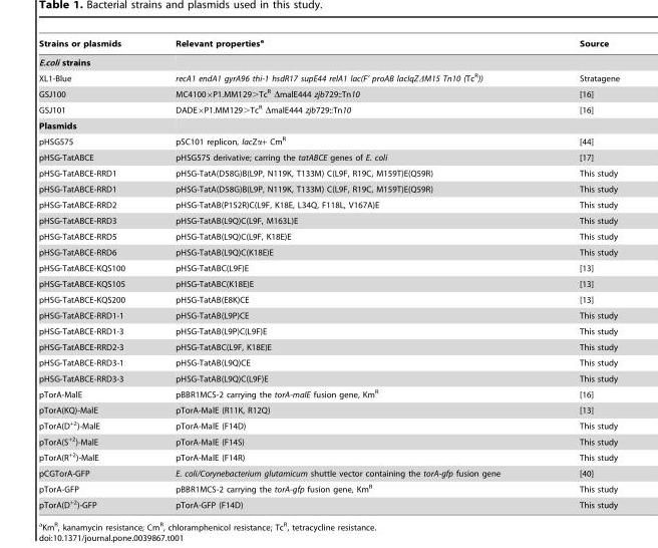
<table><thead><tr><td>Strains or plasmids</td><td>Relevant properties<sup>a</sup></td><td>Source</td></tr></thead><tbody><tr><td colspan="3">E.coli strains</td></tr><tr><td>XL1-Blue</td><td>recA1 endA1 gyrA96 thi-1 hsdR17 supE44 relA1 lac(F’ proAB lacIqZΔM15 Tn10 (Tc<sup>R</sup>))</td><td>Stratagene</td></tr><tr><td>GSJ100</td><td>MC4100×P1.MM129&gt;Tc<sup>R</sup> ΔmalE444 zjb729::Tn10</td><td>[16]</td></tr><tr><td>GSJ101</td><td>DADE×P1.MM129&gt;Tc<sup>R</sup> ΔmalE444 zjb729::Tn10</td><td>[16]</td></tr><tr><td colspan="3">Plasmids</td></tr><tr><td>pHSG575</td><td>pSC101 replicon, lacZα+ Cm<sup>R</sup></td><td>[44]</td></tr><tr><td>pHSG-TatABCE</td><td>pHSG575 derivative; carring the tatABCE genes of E. coli</td><td>[17]</td></tr><tr><td>pHSG-TatABCE-RRD1</td><td>pHSG-TatA(D58G)B(L9P, N119K, T133M) C(L9F, R19C, M159T)E(Q59R)</td><td>This study</td></tr><tr><td>pHSG-TatABCE-RRD1</td><td>pHSG-TatA(D58G)B(L9P, N119K, T133M) C(L9F, R19C, M159T)E(Q59R)</td><td>This study</td></tr><tr><td>pHSG-TatABCE-RRD2</td><td>pHSG-TatAB(P152R)C(L9F, K18E, L34Q, F118L, V167A)E</td><td>This study</td></tr><tr><td>pHSG-TatABCE-RRD3</td><td>pHSG-TatAB(L9Q)C(L9F, M163L)E</td><td>This study</td></tr><tr><td>pHSG-TatABCE-RRD5</td><td>pHSG-TatAB(L9Q)C(L9F, K18E)E</td><td>This study</td></tr><tr><td>pHSG-TatABCE-RRD6</td><td>pHSG-TatAB(L9Q)C(K18E)E</td><td>This study</td></tr><tr><td>pHSG-TatABCE-KQS100</td><td>pHSG-TatABC(L9F)E</td><td>[13]</td></tr><tr><td>pHSG-TatABCE-KQS105</td><td>pHSG-TatABC(K18E)E</td><td>[13]</td></tr><tr><td>pHSG-TatABCE-KQS200</td><td>pHSG-TatAB(E8K)CE</td><td>[13]</td></tr><tr><td>pHSG-TatABCE-RRD1-1</td><td>pHSG-TatAB(L9P)CE</td><td>This study</td></tr><tr><td>pHSG-TatABCE-RRD1-3</td><td>pHSG-TatAB(L9P)C(L9F)E</td><td>This study</td></tr><tr><td>pHSG-TatABCE-RRD2-3</td><td>pHSG-TatABC(L9F, K18E)E</td><td>This study</td></tr><tr><td>pHSG-TatABCE-RRD3-1</td><td>pHSG-TatAB(L9Q)CE</td><td>This study</td></tr><tr><td>pHSG-TatABCE-RRD3-3</td><td>pHSG-TatAB(L9Q)C(L9F)E</td><td>This study</td></tr><tr><td>pTorA-MalE</td><td>pBBR1MCS-2 carrying the torA-malE fusion gene, Km<sup>R</sup></td><td>[16]</td></tr><tr><td>pTorA(KQ)-MalE</td><td>pTorA-MalE (R11K, R12Q)</td><td>[13]</td></tr><tr><td>pTorA(D<sup>+2</sup>)-MalE</td><td>pTorA-MalE (F14D)</td><td>This study</td></tr><tr><td>pTorA(S<sup>+2</sup>)-MalE</td><td>pTorA-MalE (F14S)</td><td>This study</td></tr><tr><td>pTorA(R<sup>+2</sup>)-MalE</td><td>pTorA-MalE (F14R)</td><td>This study</td></tr><tr><td>pCGTorA-GFP</td><td>E. coli/Corynebacterium glutamicum shuttle vector containing the torA-gfp fusion gene</td><td>[40]</td></tr><tr><td>pTorA-GFP</td><td>pBBR1MCS-2 carrying the torA-gfp fusion gene, Km<sup>R</sup></td><td>This study</td></tr><tr><td>pTorA(D<sup>+2</sup>)-GFP</td><td>pTorA-GFP (F14D)</td><td>This study</td></tr></tbody></table>